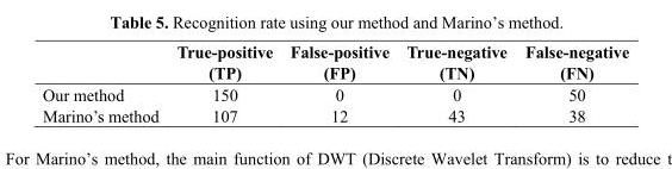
<table><thead><tr><td></td><td>True-positive (TP)</td><td>False-positive (FP)</td><td>True-negative (TN)</td><td>False-negative (FN)</td></tr></thead><tbody><tr><td>Our method</td><td>150</td><td>0</td><td>0</td><td>50</td></tr><tr><td>Marino’s method</td><td>107</td><td>12</td><td>43</td><td>38</td></tr></tbody></table>